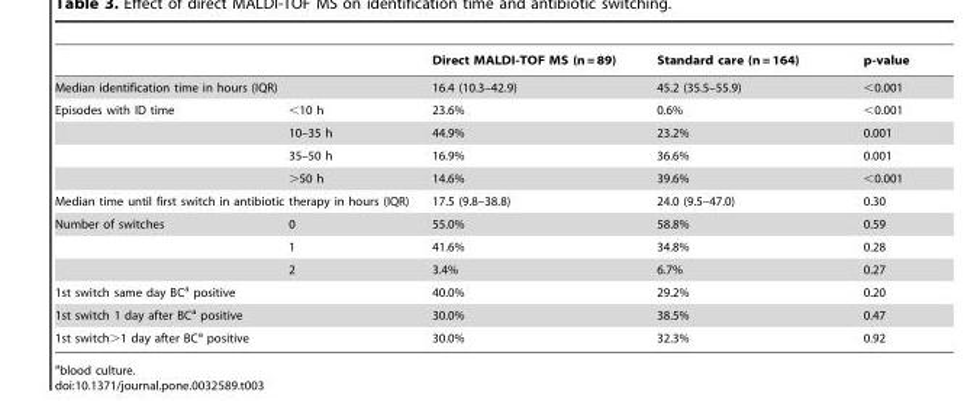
<table><thead><tr><td></td><td></td><td>Direct MALDI-TOF MS (n = 89)</td><td>Standard care (n = 164)</td><td>p-value</td></tr></thead><tbody><tr><td colspan="2">Median identification time in hours (IQR)</td><td>16.4 (10.3–42.9)</td><td>45.2 (35.5–55.9)</td><td>&lt;0.001</td></tr><tr><td rowspan="4">Episodes with ID time</td><td>&lt;10 h</td><td>23.6%</td><td>0.6%</td><td>&lt;0.001</td></tr><tr><td>10–35 h</td><td>44.9%</td><td>23.2%</td><td>0.001</td></tr><tr><td>35–50 h</td><td>16.9%</td><td>36.6%</td><td>0.001</td></tr><tr><td>&gt;50 h</td><td>14.6%</td><td>39.6%</td><td>&lt;0.001</td></tr><tr><td colspan="2">Median time until first switch in antibiotic therapy in hours (IQR)</td><td>17.5 (9.8–38.8)</td><td>24.0 (9.5–47.0)</td><td>0.30</td></tr><tr><td rowspan="3">Number of switches</td><td>0</td><td>55.0%</td><td>58.8%</td><td>0.59</td></tr><tr><td>1</td><td>41.6%</td><td>34.8%</td><td>0.28</td></tr><tr><td>2</td><td>3.4%</td><td>6.7%</td><td>0.27</td></tr><tr><td colspan="2">1st switch same day BC<sup>a</sup> positive</td><td>40.0%</td><td>29.2%</td><td>0.20</td></tr><tr><td colspan="2">1st switch 1 day after BC<sup>a</sup> positive</td><td>30.0%</td><td>38.5%</td><td>0.47</td></tr><tr><td colspan="2">1st switch&gt;1 day after BC<sup>a</sup> positive</td><td>30.0%</td><td>32.3%</td><td>0.92</td></tr></tbody></table>